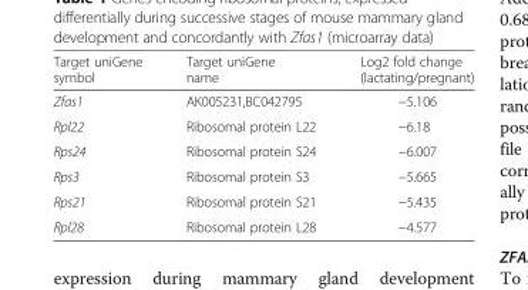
<table><thead><tr><td>Target uniGene symbol</td><td>Target uniGene name</td><td>Log2 fold change (lactating/pregnant)</td></tr></thead><tbody><tr><td>Zfas1</td><td>AK005231,BC042795</td><td>−5.106</td></tr><tr><td>Rpl22</td><td>Ribosomal protein L22</td><td>−6.18</td></tr><tr><td>Rps24</td><td>Ribosomal protein S24</td><td>−6.007</td></tr><tr><td>Rps3</td><td>Ribosomal protein S3</td><td>−5.665</td></tr><tr><td>Rps21</td><td>Ribosomal protein S21</td><td>−5.435</td></tr><tr><td>Rpl28</td><td>Ribosomal protein L28</td><td>−4.577</td></tr></tbody></table>